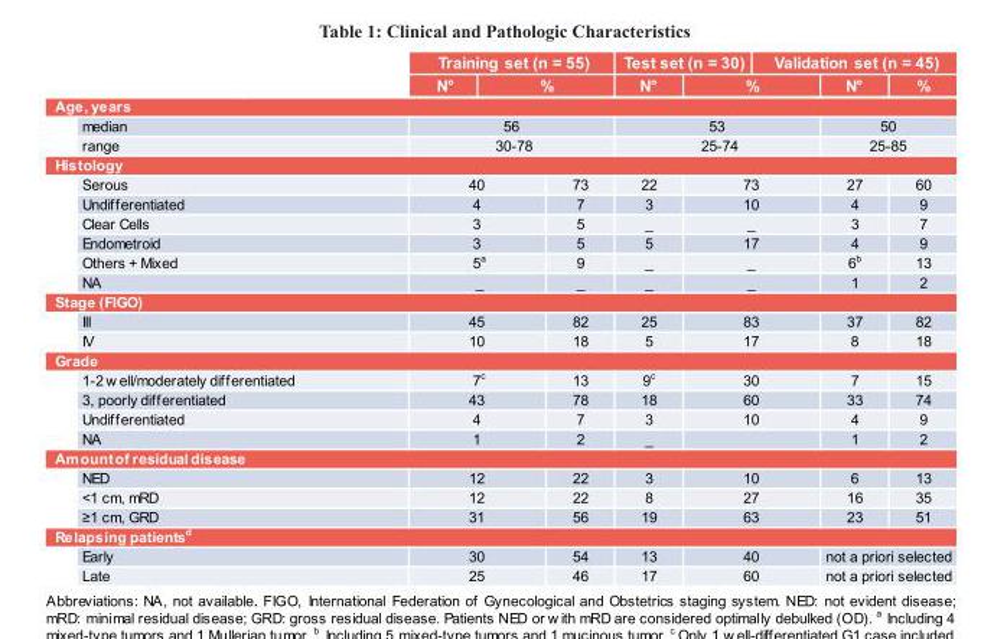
<table><thead><tr><td rowspan="2"></td><td colspan="2">Training set (n = 55)</td><td colspan="2">Test set (n = 30)</td><td colspan="2">Validation set (n = 45)</td></tr><tr><td>N°</td><td>%</td><td>N°</td><td>%</td><td>N°</td><td>%</td></tr></thead><tbody><tr><td colspan="7">Age, years</td></tr><tr><td>median</td><td colspan="2">56</td><td colspan="2">53</td><td colspan="2">50</td></tr><tr><td>range</td><td colspan="2">30-78</td><td colspan="2">25-74</td><td colspan="2">25-85</td></tr><tr><td colspan="7">Histology</td></tr><tr><td>Serous</td><td>40</td><td>73</td><td>22</td><td>73</td><td>27</td><td>60</td></tr><tr><td>Undifferentiated</td><td>4</td><td>7</td><td>3</td><td>10</td><td>4</td><td>9</td></tr><tr><td>Clear Cells</td><td>3</td><td>5</td><td>_</td><td>_</td><td>3</td><td>7</td></tr><tr><td>Endometroid</td><td>3</td><td>5</td><td>5</td><td>17</td><td>4</td><td>9</td></tr><tr><td>Others + Mixed</td><td>5<sup>a</sup></td><td>9</td><td>_</td><td>_</td><td>6<sup>b</sup></td><td>13</td></tr><tr><td>NA</td><td>_</td><td>_</td><td>_</td><td>_</td><td>1</td><td>2</td></tr><tr><td colspan="7">Stage (FIGO)</td></tr><tr><td>III</td><td>45</td><td>82</td><td>25</td><td>83</td><td>37</td><td>82</td></tr><tr><td>IV</td><td>10</td><td>18</td><td>5</td><td>17</td><td>8</td><td>18</td></tr><tr><td colspan="7">Grade</td></tr><tr><td>1-2 w ell/moderately differentiated</td><td>7<sup>c</sup></td><td>13</td><td>9<sup>c</sup></td><td>30</td><td>7</td><td>15</td></tr><tr><td>3, poorly differentiated</td><td>43</td><td>78</td><td>18</td><td>60</td><td>33</td><td>74</td></tr><tr><td>Undifferentiated</td><td>4</td><td>7</td><td>3</td><td>10</td><td>4</td><td>9</td></tr><tr><td>NA</td><td>1</td><td>2</td><td>_</td><td></td><td>1</td><td>2</td></tr><tr><td colspan="7">Amount of residual disease</td></tr><tr><td>NED</td><td>12</td><td>22</td><td>3</td><td>10</td><td>6</td><td>13</td></tr><tr><td>&lt;1 cm, mRD</td><td>12</td><td>22</td><td>8</td><td>27</td><td>16</td><td>35</td></tr><tr><td>≥1 cm, GRD</td><td>31</td><td>56</td><td>19</td><td>63</td><td>23</td><td>51</td></tr><tr><td colspan="7">Relapsing patients<sup>d</sup></td></tr><tr><td>Early</td><td>30</td><td>54</td><td>13</td><td>40</td><td colspan="2">not a priori selected</td></tr><tr><td>Late</td><td>25</td><td>46</td><td>17</td><td>60</td><td colspan="2">not a priori selected</td></tr></tbody></table>